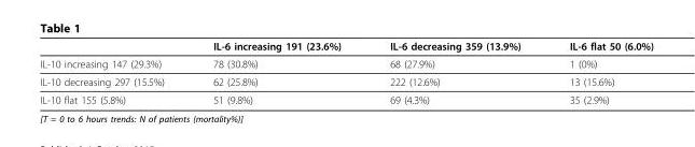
<table><thead><tr><td></td><td>IL-6 increasing 191 (23.6%)</td><td>IL-6 decreasing 359 (13.9%)</td><td>IL-6 flat 50 (6.0%)</td></tr></thead><tbody><tr><td>IL-10 increasing 147 (29.3%)</td><td>78 (30.8%)</td><td>68 (27.9%)</td><td>1 (0%)</td></tr><tr><td>IL-10 decreasing 297 (15.5%)</td><td>62 (25.8%)</td><td>222 (12.6%)</td><td>13 (15.6%)</td></tr><tr><td>IL-10 flat 155 (5.8%)</td><td>51 (9.8%)</td><td>69 (4.3%)</td><td>35 (2.9%)</td></tr></tbody></table>